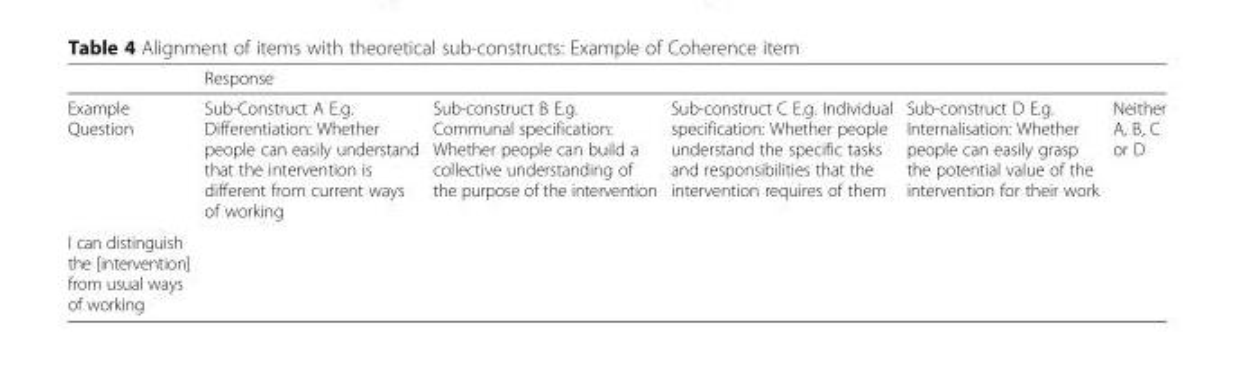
<table><thead><tr><td rowspan="2">Example Question</td><td colspan="5">Response</td></tr><tr><td>Sub-Construct A E.g. Differentiation: Whether people can easily understand that the intervention is different from current ways of working</td><td>Sub-construct B E.g. Communal specification: Whether people can build a collective understanding of the purpose of the intervention</td><td>Sub-construct C E.g. Individual specification: Whether people understand the specific tasks and responsibilities that the intervention requires of them</td><td>Sub-construct D E.g. Internalisation: Whether people can easily grasp the potential value of the intervention for their work</td><td>Neither A, B, C or D</td></tr></thead><tbody><tr><td>I can distinguish the [intervention] from usual ways of working</td><td></td><td></td><td></td><td></td><td></td></tr></tbody></table>